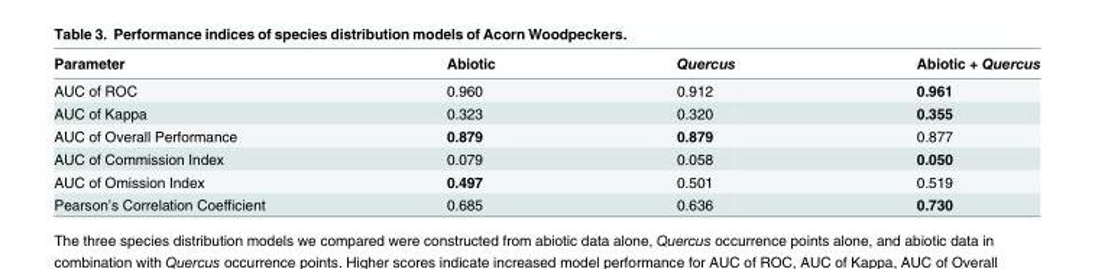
<table><thead><tr><td>Parameter</td><td>Abiotic</td><td>Quercus</td><td>Abiotic + Quercus</td></tr></thead><tbody><tr><td>AUC of ROC</td><td>0.960</td><td>0.912</td><td>0.961</td></tr><tr><td>AUC of Kappa</td><td>0.323</td><td>0.320</td><td>0.355</td></tr><tr><td>AUC of Overall Performance</td><td>0.879</td><td>0.879</td><td>0.877</td></tr><tr><td>AUC of Commission Index</td><td>0.079</td><td>0.058</td><td>0.050</td></tr><tr><td>AUC of Omission Index</td><td>0.497</td><td>0.501</td><td>0.519</td></tr><tr><td>Pearson’s Correlation Coefficient</td><td>0.685</td><td>0.636</td><td>0.730</td></tr></tbody></table>